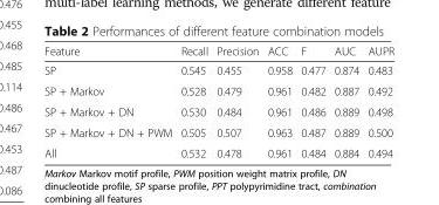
<table><thead><tr><td>Feature</td><td>Recall</td><td>Precision</td><td>ACC</td><td>F</td><td>AUC</td><td>AUPR</td></tr></thead><tbody><tr><td>SP</td><td>0.545</td><td>0.455</td><td>0.958</td><td>0.477</td><td>0.874</td><td>0.483</td></tr><tr><td>SP + Markov</td><td>0.528</td><td>0.479</td><td>0.961</td><td>0.482</td><td>0.887</td><td>0.492</td></tr><tr><td>SP + Markov + DN</td><td>0.530</td><td>0.484</td><td>0.961</td><td>0.486</td><td>0.889</td><td>0.498</td></tr><tr><td>SP + Markov + DN + PWM</td><td>0.505</td><td>0.507</td><td>0.963</td><td>0.487</td><td>0.889</td><td>0.500</td></tr><tr><td>All</td><td>0.532</td><td>0.478</td><td>0.961</td><td>0.484</td><td>0.884</td><td>0.494</td></tr></tbody></table>